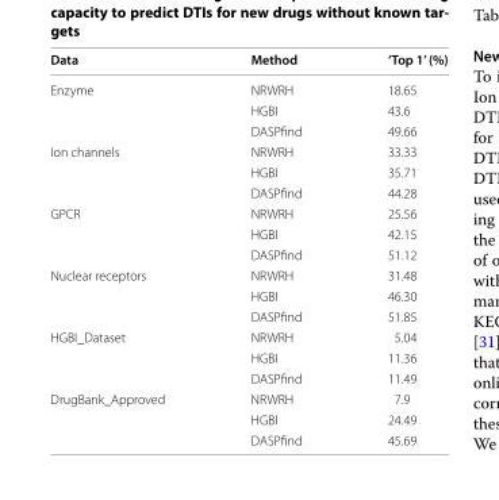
<table><thead><tr><td>Data</td><td>Method</td><td>‘Top 1’ (%)</td></tr></thead><tbody><tr><td rowspan="3">Enzyme</td><td>NRWRH</td><td>18.65</td></tr><tr><td>HGBI</td><td>43.6</td></tr><tr><td>DASPfind</td><td>49.66</td></tr><tr><td rowspan="3">Ion channels</td><td>NRWRH</td><td>33.33</td></tr><tr><td>HGBI</td><td>35.71</td></tr><tr><td>DASPfind</td><td>44.28</td></tr><tr><td rowspan="3">GPCR</td><td>NRWRH</td><td>25.56</td></tr><tr><td>HGBI</td><td>42.15</td></tr><tr><td>DASPfind</td><td>51.12</td></tr><tr><td rowspan="3">Nuclear receptors</td><td>NRWRH</td><td>31.48</td></tr><tr><td>HGBI</td><td>46.30</td></tr><tr><td>DASPfind</td><td>51.85</td></tr><tr><td rowspan="3">HGBI_Dataset</td><td>NRWRH</td><td>5.04</td></tr><tr><td>HGBI</td><td>11.36</td></tr><tr><td>DASPfind</td><td>11.49</td></tr><tr><td rowspan="3">DrugBank_Approved</td><td>NRWRH</td><td>7.9</td></tr><tr><td>HGBI</td><td>24.49</td></tr><tr><td>DASPfind</td><td>45.69</td></tr></tbody></table>